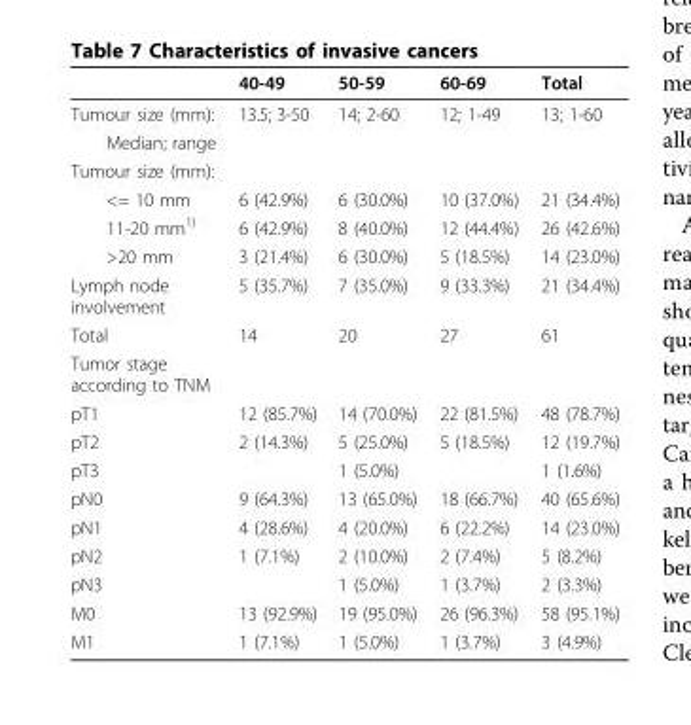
<table><thead><tr><td></td><td>40-49</td><td>50-59</td><td>60-69</td><td>Total</td></tr></thead><tbody><tr><td>Tumour size (mm):</td><td>13.5; 3-50</td><td>14; 2-60</td><td>12; 1-49</td><td>13; 1-60</td></tr><tr><td colspan="5">Median; range</td></tr><tr><td colspan="5">Tumour size (mm):</td></tr><tr><td>&lt;= 10 mm</td><td>6 (42.9%)</td><td>6 (30.0%)</td><td>10 (37.0%)</td><td>21 (34.4%)</td></tr><tr><td>11-20 mm<sup>1)</sup></td><td>6 (42.9%)</td><td>8 (40.0%)</td><td>12 (44.4%)</td><td>26 (42.6%)</td></tr><tr><td>&gt;20 mm</td><td>3 (21.4%)</td><td>6 (30.0%)</td><td>5 (18.5%)</td><td>14 (23.0%)</td></tr><tr><td>Lymph node involvement</td><td>5 (35.7%)</td><td>7 (35.0%)</td><td>9 (33.3%)</td><td>21 (34.4%)</td></tr><tr><td>Total</td><td>14</td><td>20</td><td>27</td><td>61</td></tr><tr><td colspan="5">Tumor stage according to TNM</td></tr><tr><td>pT1</td><td>12 (85.7%)</td><td>14 (70.0%)</td><td>22 (81.5%)</td><td>48 (78.7%)</td></tr><tr><td>pT2</td><td>2 (14.3%)</td><td>5 (25.0%)</td><td>5 (18.5%)</td><td>12 (19.7%)</td></tr><tr><td>pT3</td><td></td><td>1 (5.0%)</td><td></td><td>1 (1.6%)</td></tr><tr><td>pN0</td><td>9 (64.3%)</td><td>13 (65.0%)</td><td>18 (66.7%)</td><td>40 (65.6%)</td></tr><tr><td>pN1</td><td>4 (28.6%)</td><td>4 (20.0%)</td><td>6 (22.2%)</td><td>14 (23.0%)</td></tr><tr><td>pN2</td><td>1 (7.1%)</td><td>2 (10.0%)</td><td>2 (7.4%)</td><td>5 (8.2%)</td></tr><tr><td>pN3</td><td></td><td>1 (5.0%)</td><td>1 (3.7%)</td><td>2 (3.3%)</td></tr><tr><td>M0</td><td>13 (92.9%)</td><td>19 (95.0%)</td><td>26 (96.3%)</td><td>58 (95.1%)</td></tr><tr><td>M1</td><td>1 (7.1%)</td><td>1 (5.0%)</td><td>1 (3.7%)</td><td>3 (4.9%)</td></tr></tbody></table>